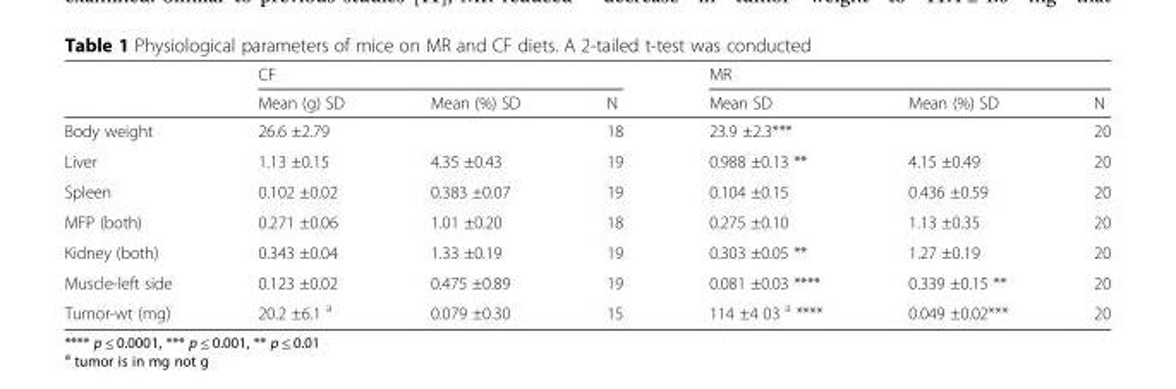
<table><thead><tr><td rowspan="2"></td><td colspan="3">CF</td><td colspan="3">MR</td></tr><tr><td>Mean (g) SD</td><td>Mean (%) SD</td><td>N</td><td>Mean SD</td><td>Mean (%) SD</td><td>N</td></tr></thead><tbody><tr><td>Body weight</td><td>26.6 ±2.79</td><td></td><td>18</td><td>23.9 ±2.3***</td><td></td><td>20</td></tr><tr><td>Liver</td><td>1.13 ±0.15</td><td>4.35 ±0.43</td><td>19</td><td>0.988 ±0.13 **</td><td>4.15 ±0.49</td><td>20</td></tr><tr><td>Spleen</td><td>0.102 ±0.02</td><td>0.383 ±0.07</td><td>19</td><td>0.104 ±0.15</td><td>0.436 ±0.59</td><td>20</td></tr><tr><td>MFP (both)</td><td>0.271 ±0.06</td><td>1.01 ±0.20</td><td>18</td><td>0.275 ±0.10</td><td>1.13 ±0.35</td><td>20</td></tr><tr><td>Kidney (both)</td><td>0.343 ±0.04</td><td>1.33 ±0.19</td><td>19</td><td>0.303 ±0.05 **</td><td>1.27 ±0.19</td><td>20</td></tr><tr><td>Muscle-left side</td><td>0.123 ±0.02</td><td>0.475 ±0.89</td><td>19</td><td>0.081 ±0.03 ****</td><td>0.339 ±0.15 **</td><td>20</td></tr><tr><td>Tumor-wt (mg)</td><td>20.2 ±6.1 <sup>a</sup></td><td>0.079 ±0.30</td><td>15</td><td>114 ±4 03 <sup>a</sup> ****</td><td>0.049 ±0.02***</td><td>20</td></tr></tbody></table>